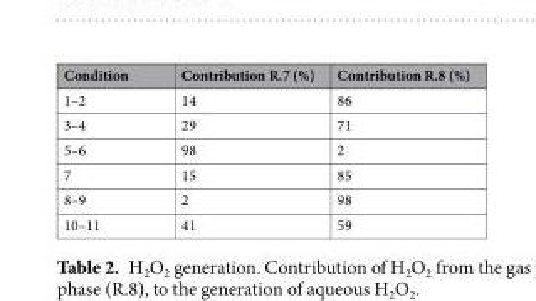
<table><thead><tr><td>Condition</td><td>Contribution R.7 (%)</td><td>Contribution R.8 (%)</td></tr></thead><tbody><tr><td>1–2</td><td>14</td><td>86</td></tr><tr><td>3–4</td><td>29</td><td>71</td></tr><tr><td>5–6</td><td>98</td><td>2</td></tr><tr><td>7</td><td>15</td><td>85</td></tr><tr><td>8–9</td><td>2</td><td>98</td></tr><tr><td>10–11</td><td>41</td><td>59</td></tr></tbody></table>